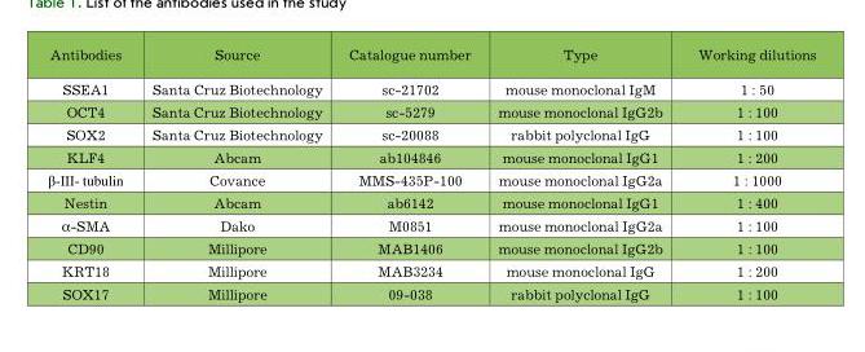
<table><thead><tr><td>Antibodies</td><td>Source</td><td>Catalogue number</td><td>Type</td><td>Working dilutions</td></tr></thead><tbody><tr><td>SSEA1</td><td>Santa Cruz Biotechnology</td><td>sc-21702</td><td>mouse monoclonal IgM</td><td>1 : 50</td></tr><tr><td>OCT4</td><td>Santa Cruz Biotechnology</td><td>sc-5279</td><td>mouse monoclonal IgG2b</td><td>1 : 100</td></tr><tr><td>SOX2</td><td>Santa Cruz Biotechnology</td><td>sc-20088</td><td>rabbit polyclonal IgG</td><td>1 : 100</td></tr><tr><td>KLF4</td><td>Abcam</td><td>ab104846</td><td>mouse monoclonal IgG1</td><td>1 : 200</td></tr><tr><td>β-III- tubulin</td><td>Covance</td><td>MMS-435P-100</td><td>mouse monoclonal IgG2a</td><td>1 : 1000</td></tr><tr><td>Nestin</td><td>Abcam</td><td>ab6142</td><td>mouse monoclonal IgG1</td><td>1 : 400</td></tr><tr><td>α-SMA</td><td>Dako</td><td>M0851</td><td>mouse monoclonal IgG2a</td><td>1 : 100</td></tr><tr><td>CD90</td><td>Millipore</td><td>MAB1406</td><td>mouse monoclonal IgG2b</td><td>1 : 100</td></tr><tr><td>KRT18</td><td>Millipore</td><td>MAB3234</td><td>mouse monoclonal IgG</td><td>1 : 200</td></tr><tr><td>SOX17</td><td>Millipore</td><td>09-038</td><td>rabbit polyclonal IgG</td><td>1 : 100</td></tr></tbody></table>